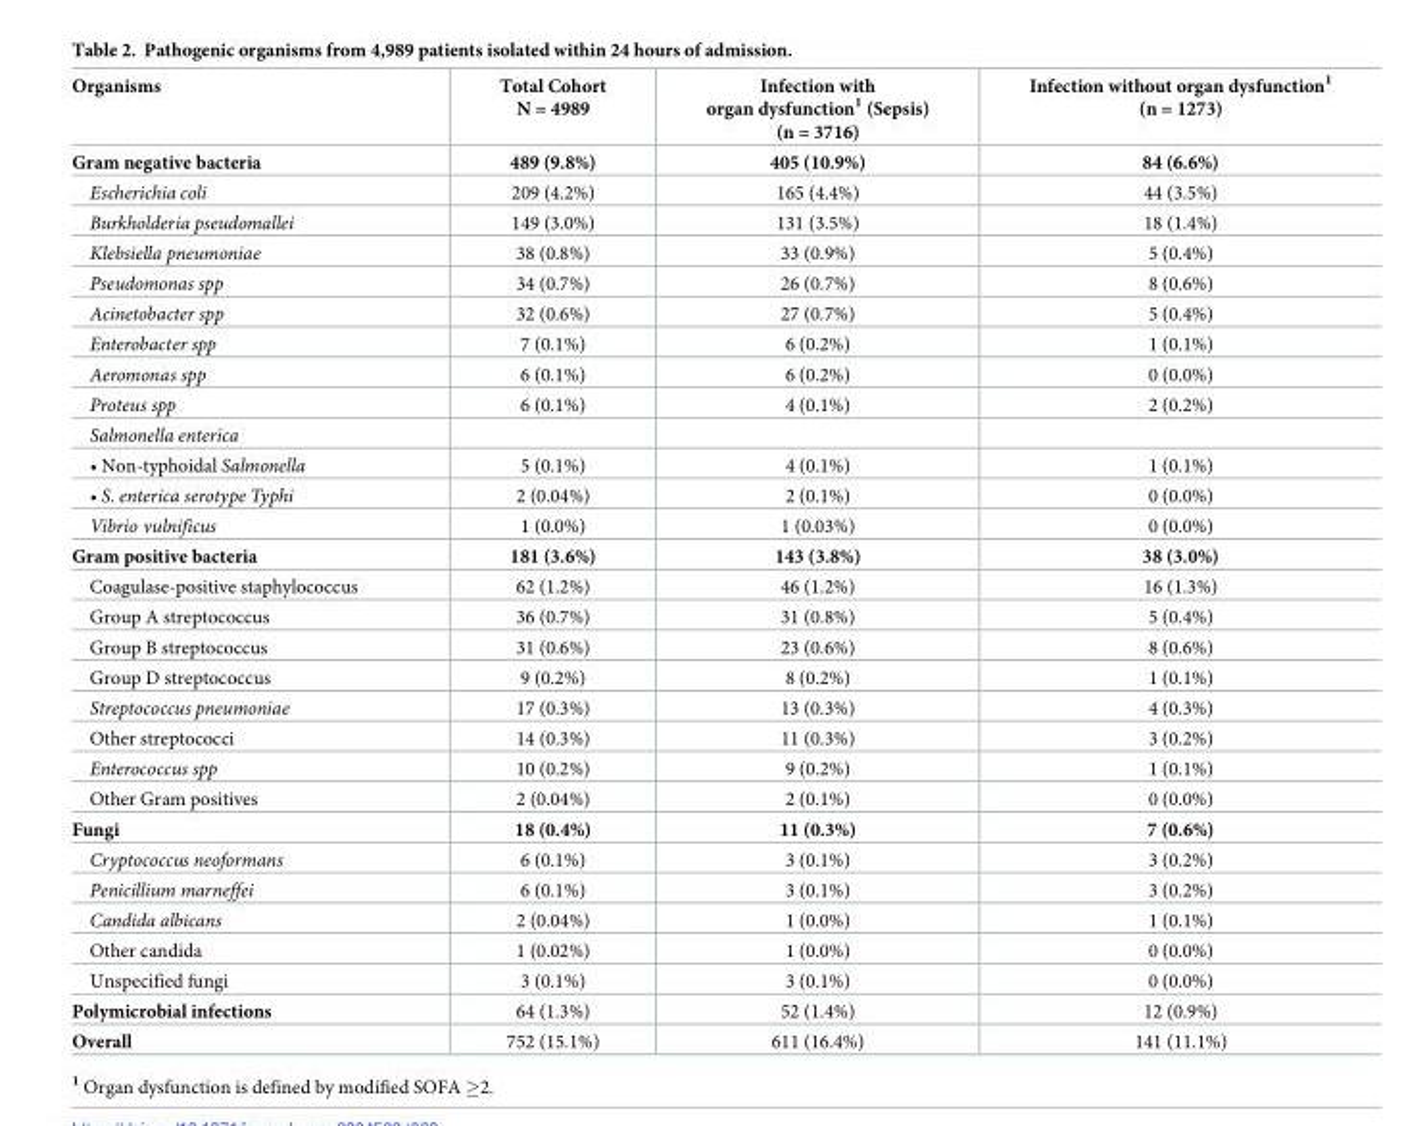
<table><thead><tr><td>Organisms</td><td>Total Cohort N = 4989</td><td>Infection with organ dysfunction<sup>1</sup> (Sepsis) (n = 3716)</td><td>Infection without organ dysfunction<sup>1</sup> (n = 1273)</td></tr></thead><tbody><tr><td>Gram negative bacteria</td><td>489 (9.8%)</td><td>405 (10.9%)</td><td>84 (6.6%)</td></tr><tr><td>Escherichia coli</td><td>209 (4.2%)</td><td>165 (4.4%)</td><td>44 (3.5%)</td></tr><tr><td>Burkholderia pseudomallei</td><td>149 (3.0%)</td><td>131 (3.5%)</td><td>18 (1.4%)</td></tr><tr><td>Klebsiella pneumoniae</td><td>38 (0.8%)</td><td>33 (0.9%)</td><td>5 (0.4%)</td></tr><tr><td>Pseudomonas spp</td><td>34 (0.7%)</td><td>26 (0.7%)</td><td>8 (0.6%)</td></tr><tr><td>Acinetobacter spp</td><td>32 (0.6%)</td><td>27 (0.7%)</td><td>5 (0.4%)</td></tr><tr><td>Enterobacter spp</td><td>7 (0.1%)</td><td>6 (0.2%)</td><td>1 (0.1%)</td></tr><tr><td>Aeromonas spp</td><td>6 (0.1%)</td><td>6 (0.2%)</td><td>0 (0.0%)</td></tr><tr><td>Proteus spp</td><td>6 (0.1%)</td><td>4 (0.1%)</td><td>2 (0.2%)</td></tr><tr><td colspan="4">Salmonella enterica</td></tr><tr><td>• Non-typhoidal Salmonella</td><td>5 (0.1%)</td><td>4 (0.1%)</td><td>1 (0.1%)</td></tr><tr><td>• S. enterica serotype Typhi</td><td>2 (0.04%)</td><td>2 (0.1%)</td><td>0 (0.0%)</td></tr><tr><td>Vibrio vulnificus</td><td>1 (0.0%)</td><td>1 (0.03%)</td><td>0 (0.0%)</td></tr><tr><td>Gram positive bacteria</td><td>181 (3.6%)</td><td>143 (3.8%)</td><td>38 (3.0%)</td></tr><tr><td>Coagulase-positive staphylococcus</td><td>62 (1.2%)</td><td>46 (1.2%)</td><td>16 (1.3%)</td></tr><tr><td>Group A streptococcus</td><td>36 (0.7%)</td><td>31 (0.8%)</td><td>5 (0.4%)</td></tr><tr><td>Group B streptococcus</td><td>31 (0.6%)</td><td>23 (0.6%)</td><td>8 (0.6%)</td></tr><tr><td>Group D streptococcus</td><td>9 (0.2%)</td><td>8 (0.2%)</td><td>1 (0.1%)</td></tr><tr><td>Streptococcus pneumoniae</td><td>17 (0.3%)</td><td>13 (0.3%)</td><td>4 (0.3%)</td></tr><tr><td>Other streptococci</td><td>14 (0.3%)</td><td>11 (0.3%)</td><td>3 (0.2%)</td></tr><tr><td>Enterococcus spp</td><td>10 (0.2%)</td><td>9 (0.2%)</td><td>1 (0.1%)</td></tr><tr><td>Other Gram positives</td><td>2 (0.04%)</td><td>2 (0.1%)</td><td>0 (0.0%)</td></tr><tr><td>Fungi</td><td>18 (0.4%)</td><td>11 (0.3%)</td><td>7 (0.6%)</td></tr><tr><td>Cryptococcus neoformans</td><td>6 (0.1%)</td><td>3 (0.1%)</td><td>3 (0.2%)</td></tr><tr><td>Penicillium marneffei</td><td>6 (0.1%)</td><td>3 (0.1%)</td><td>3 (0.2%)</td></tr><tr><td>Candida albicans</td><td>2 (0.04%)</td><td>1 (0.0%)</td><td>1 (0.1%)</td></tr><tr><td>Other candida</td><td>1 (0.02%)</td><td>1 (0.0%)</td><td>0 (0.0%)</td></tr><tr><td>Unspecified fungi</td><td>3 (0.1%)</td><td>3 (0.1%)</td><td>0 (0.0%)</td></tr><tr><td>Polymicrobial infections</td><td>64 (1.3%)</td><td>52 (1.4%)</td><td>12 (0.9%)</td></tr><tr><td>Overall</td><td>752 (15.1%)</td><td>611 (16.4%)</td><td>141 (11.1%)</td></tr></tbody></table>